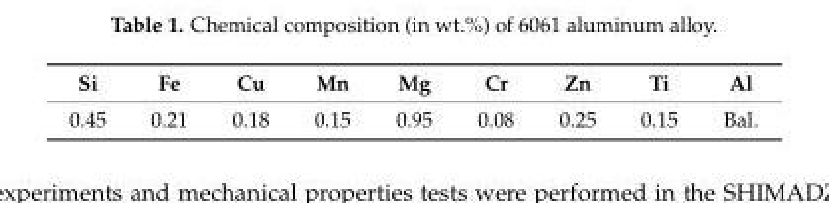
<table><thead><tr><td>Si</td><td>Fe</td><td>Cu</td><td>Mn</td><td>Mg</td><td>Cr</td><td>Zn</td><td>Ti</td><td>Al</td></tr></thead><tbody><tr><td>0.45</td><td>0.21</td><td>0.18</td><td>0.15</td><td>0.95</td><td>0.08</td><td>0.25</td><td>0.15</td><td>Bal.</td></tr></tbody></table>